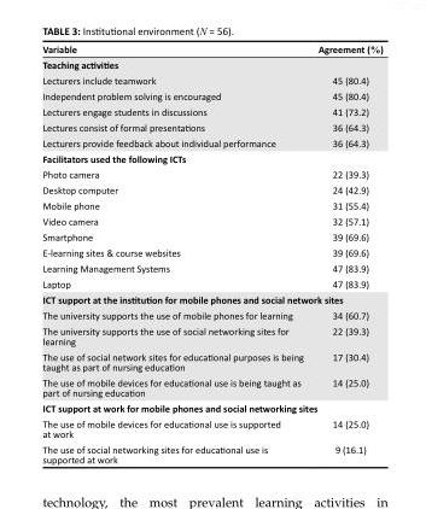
<table><thead><tr><td>Variable</td><td>Agreement (%)</td></tr></thead><tbody><tr><td colspan="2">Teaching activities</td></tr><tr><td>Lecturers include teamwork</td><td>45 (80.4)</td></tr><tr><td>Independent problem solving is encouraged</td><td>45 (80.4)</td></tr><tr><td>Lecturers engage students in discussions</td><td>41 (73.2)</td></tr><tr><td>Lectures consist of formal presentations</td><td>36 (64.3)</td></tr><tr><td>Lecturers provide feedback about individual performance</td><td>36 (64.3)</td></tr><tr><td colspan="2">Facilitators used the following ICTs</td></tr><tr><td>Photo camera</td><td>22 (39.3)</td></tr><tr><td>Desktop computer</td><td>24 (42.9)</td></tr><tr><td>Mobile phone</td><td>31 (55.4)</td></tr><tr><td>Video camera</td><td>32 (57.1)</td></tr><tr><td>Smartphone</td><td>39 (69.6)</td></tr><tr><td>E-learning sites &amp; course websites</td><td>39 (69.6)</td></tr><tr><td>Learning Management Systems</td><td>47 (83.9)</td></tr><tr><td>Laptop</td><td>47 (83.9)</td></tr><tr><td colspan="2">ICT support at the institution for mobile phones and social network sites</td></tr><tr><td>The university supports the use of mobile phones for learning</td><td>34 (60.7)</td></tr><tr><td>The university supports the use of social networking sites for learning</td><td>22 (39.3)</td></tr><tr><td>The use of social network sites for educational purposes is being taught as part of nursing education</td><td>17 (30.4)</td></tr><tr><td>The use of mobile devices for educational use is being taught as part of nursing education</td><td>14 (25.0)</td></tr><tr><td colspan="2">ICT support at work for mobile phones and social networking sites</td></tr><tr><td>The use of mobile devices for educational use is supported at work</td><td>14 (25.0)</td></tr><tr><td>The use of social networking sites for educational use is supported at work</td><td>9 (16.1)</td></tr></tbody></table>